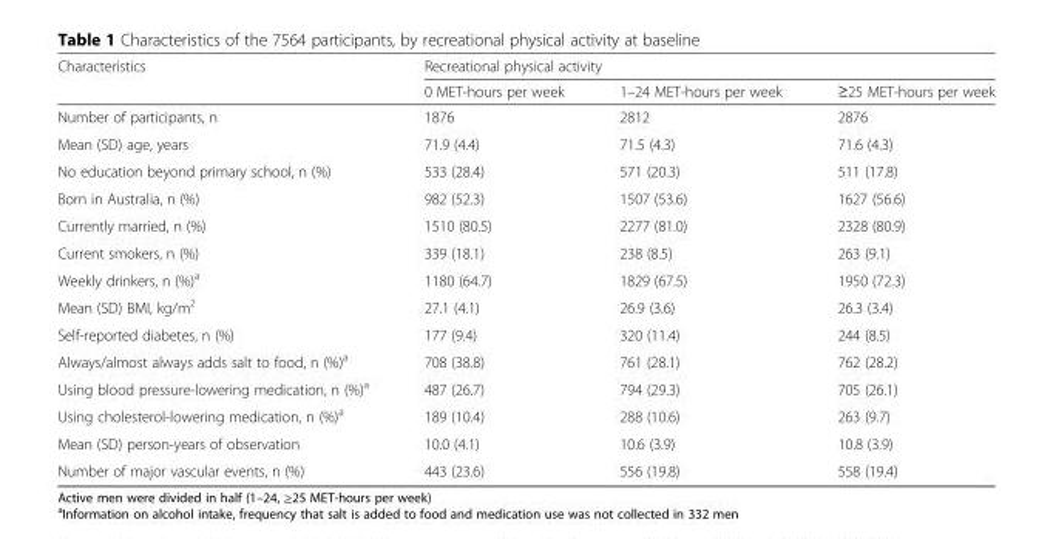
<table><thead><tr><td rowspan="2">Characteristics</td><td colspan="3">Recreational physical activity</td></tr><tr><td>0 MET-hours per week</td><td>1–24 MET-hours per week</td><td>≥25 MET-hours per week</td></tr></thead><tbody><tr><td>Number of participants, n</td><td>1876</td><td>2812</td><td>2876</td></tr><tr><td>Mean (SD) age, years</td><td>71.9 (4.4)</td><td>71.5 (4.3)</td><td>71.6 (4.3)</td></tr><tr><td>No education beyond primary school, n (%)</td><td>533 (28.4)</td><td>571 (20.3)</td><td>511 (17.8)</td></tr><tr><td>Born in Australia, n (%)</td><td>982 (52.3)</td><td>1507 (53.6)</td><td>1627 (56.6)</td></tr><tr><td>Currently married, n (%)</td><td>1510 (80.5)</td><td>2277 (81.0)</td><td>2328 (80.9)</td></tr><tr><td>Current smokers, n (%)</td><td>339 (18.1)</td><td>238 (8.5)</td><td>263 (9.1)</td></tr><tr><td>Weekly drinkers, n (%)<sup>a</sup></td><td>1180 (64.7)</td><td>1829 (67.5)</td><td>1950 (72.3)</td></tr><tr><td>Mean (SD) BMI, kg/m<sup>2</sup></td><td>27.1 (4.1)</td><td>26.9 (3.6)</td><td>26.3 (3.4)</td></tr><tr><td>Self-reported diabetes, n (%)</td><td>177 (9.4)</td><td>320 (11.4)</td><td>244 (8.5)</td></tr><tr><td>Always/almost always adds salt to food, n (%)<sup>a</sup></td><td>708 (38.8)</td><td>761 (28.1)</td><td>762 (28.2)</td></tr><tr><td>Using blood pressure-lowering medication, n (%)<sup>a</sup></td><td>487 (26.7)</td><td>794 (29.3)</td><td>705 (26.1)</td></tr><tr><td>Using cholesterol-lowering medication, n (%)<sup>a</sup></td><td>189 (10.4)</td><td>288 (10.6)</td><td>263 (9.7)</td></tr><tr><td>Mean (SD) person-years of observation</td><td>10.0 (4.1)</td><td>10.6 (3.9)</td><td>10.8 (3.9)</td></tr><tr><td>Number of major vascular events, n (%)</td><td>443 (23.6)</td><td>556 (19.8)</td><td>558 (19.4)</td></tr></tbody></table>